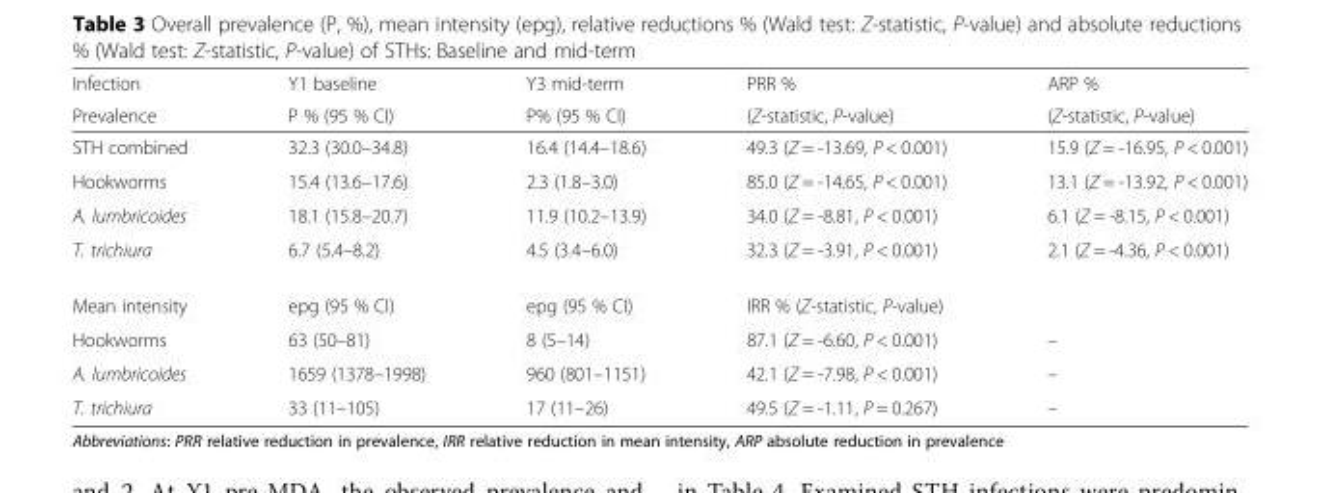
<table><thead><tr><td rowspan="2">Infection Prevalence</td><td rowspan="2">Y1 baseline P % (95 % CI)</td><td rowspan="2">Y3 mid-term P% (95 % CI)</td><td rowspan="2">PRR % (Z-statistic, P-value)</td><td rowspan="2">ARP % (Z-statistic, P-value)</td></tr><tr></tr></thead><tbody><tr><td>STH combined</td><td>32.3 (30.0–34.8)</td><td>16.4 (14.4–18.6)</td><td>49.3 (Z = -13.69, P &lt; 0.001)</td><td>15.9 (Z = -16.95, P &lt; 0.001)</td></tr><tr><td>Hookworms</td><td>15.4 (13.6–17.6)</td><td>2.3 (1.8–3.0)</td><td>85.0 (Z = -14.65, P &lt; 0.001)</td><td>13.1 (Z = -13.92, P &lt; 0.001)</td></tr><tr><td>A. lumbricoides</td><td>18.1 (15.8–20.7)</td><td>11.9 (10.2–13.9)</td><td>34.0 (Z = -8.81, P &lt; 0.001)</td><td>6.1 (Z = -8.15, P &lt; 0.001)</td></tr><tr><td>T. trichiura</td><td>6.7 (5.4–8.2)</td><td>4.5 (3.4–6.0)</td><td>32.3 (Z = -3.91, P &lt; 0.001)</td><td>2.1 (Z = -4.36, P &lt; 0.001)</td></tr><tr><td>Mean intensity</td><td>epg (95 % CI)</td><td>epg (95 % CI)</td><td>IRR % (Z-statistic, P-value)</td><td></td></tr><tr><td>Hookworms</td><td>63 (50–81)</td><td>8 (5–14)</td><td>87.1 (Z = -6.60, P &lt; 0.001)</td><td>–</td></tr><tr><td>A. lumbricoides</td><td>1659 (1378–1998)</td><td>960 (801–1151)</td><td>42.1 (Z = -7.98, P &lt; 0.001)</td><td>–</td></tr><tr><td>T. trichiura</td><td>33 (11–105)</td><td>17 (11–26)</td><td>49.5 (Z = -1.11, P = 0.267)</td><td>–</td></tr></tbody></table>